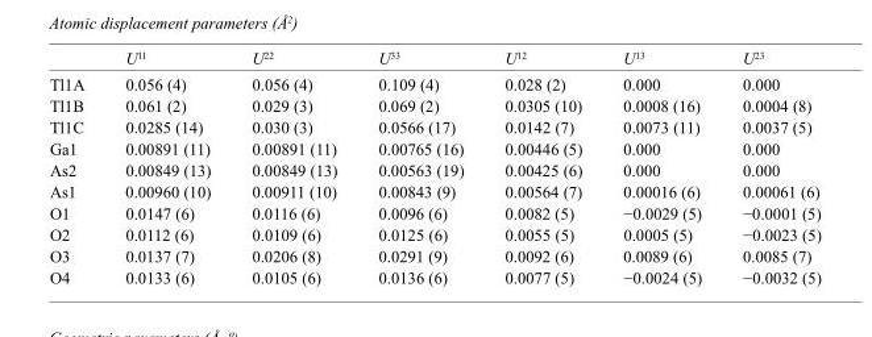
<table><thead><tr><td></td><td>U<sup>11</sup></td><td>U<sup>22</sup></td><td>U<sup>33</sup></td><td>U<sup>12</sup></td><td>U<sup>13</sup></td><td>U<sup>23</sup></td></tr></thead><tbody><tr><td>Tl1A</td><td>0.056 (4)</td><td>0.056 (4)</td><td>0.109 (4)</td><td>0.028 (2)</td><td>0.000</td><td>0.000</td></tr><tr><td>Tl1B</td><td>0.061 (2)</td><td>0.029 (3)</td><td>0.069 (2)</td><td>0.0305 (10)</td><td>0.0008 (16)</td><td>0.0004 (8)</td></tr><tr><td>Tl1C</td><td>0.0285 (14)</td><td>0.030 (3)</td><td>0.0566 (17)</td><td>0.0142 (7)</td><td>0.0073 (11)</td><td>0.0037 (5)</td></tr><tr><td>Ga1</td><td>0.00891 (11)</td><td>0.00891 (11)</td><td>0.00765 (16)</td><td>0.00446 (5)</td><td>0.000</td><td>0.000</td></tr><tr><td>As2</td><td>0.00849 (13)</td><td>0.00849 (13)</td><td>0.00563 (19)</td><td>0.00425 (6)</td><td>0.000</td><td>0.000</td></tr><tr><td>As1</td><td>0.00960 (10)</td><td>0.00911 (10)</td><td>0.00843 (9)</td><td>0.00564 (7)</td><td>0.00016 (6)</td><td>0.00061 (6)</td></tr><tr><td>O1</td><td>0.0147 (6)</td><td>0.0116 (6)</td><td>0.0096 (6)</td><td>0.0082 (5)</td><td>−0.0029 (5)</td><td>−0.0001 (5)</td></tr><tr><td>O2</td><td>0.0112 (6)</td><td>0.0109 (6)</td><td>0.0125 (6)</td><td>0.0055 (5)</td><td>0.0005 (5)</td><td>−0.0023 (5)</td></tr><tr><td>O3</td><td>0.0137 (7)</td><td>0.0206 (8)</td><td>0.0291 (9)</td><td>0.0092 (6)</td><td>0.0089 (6)</td><td>0.0085 (7)</td></tr><tr><td>O4</td><td>0.0133 (6)</td><td>0.0105 (6)</td><td>0.0136 (6)</td><td>0.0077 (5)</td><td>−0.0024 (5)</td><td>−0.0032 (5)</td></tr></tbody></table>